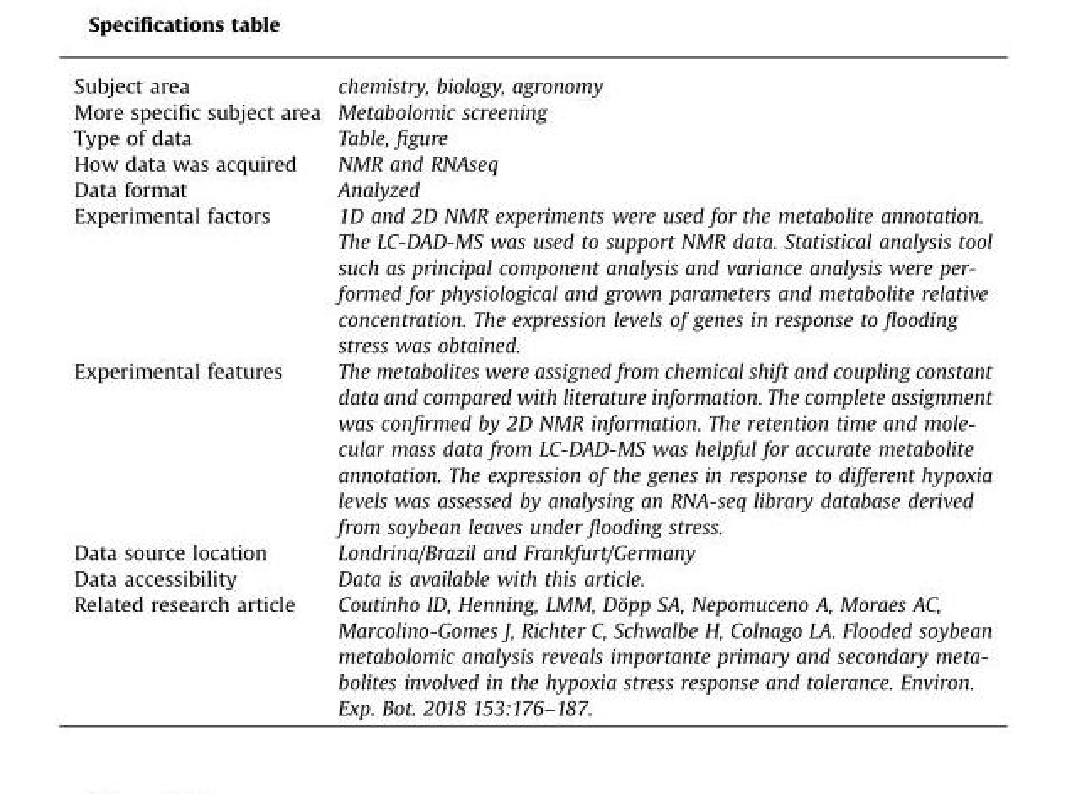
<table><tbody><tr><td>Subject area</td><td>chemistry, biology, agronomy</td></tr><tr><td>More specific subject area</td><td>Metabolomic screening</td></tr><tr><td>Type of data</td><td>Table, figure</td></tr><tr><td>How data was acquired</td><td>NMR and RNAseq</td></tr><tr><td>Data format</td><td>Analyzed</td></tr><tr><td>Experimental factors</td><td>1D and 2D NMR experiments were used for the metabolite annotation. The LC-DAD-MS was used to support NMR data. Statistical analysis tool such as principal component analysis and variance analysis were per- formed for physiological and grown parameters and metabolite relative concentration. The expression levels of genes in response to flooding stress was obtained.</td></tr><tr><td>Experimental features</td><td>The metabolites were assigned from chemical shift and coupling constant data and compared with literature information. The complete assignment was confirmed by 2D NMR information. The retention time and mole- cular mass data from LC-DAD-MS was helpful for accurate metabolite annotation. The expression of the genes in response to different hypoxia levels was assessed by analysing an RNA-seq library database derived from soybean leaves under flooding stress.</td></tr><tr><td>Data source location</td><td>Londrina/Brazil and Frankfurt/Germany</td></tr><tr><td>Data accessibility</td><td>Data is available with this article.</td></tr><tr><td>Related research article</td><td>Coutinho ID, Henning, LMM, Döpp SA, Nepomuceno A, Moraes AC, Marcolino-Gomes J, Richter C, Schwalbe H, Colnago LA. Flooded soybean metabolomic analysis reveals importante primary and secondary meta- bolites involved in the hypoxia stress response and tolerance. Environ. Exp. Bot. 2018 153:176–187.</td></tr></tbody></table>